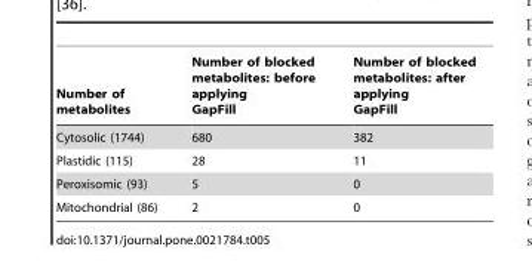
<table><thead><tr><td>Number of metabolites</td><td>Number of blocked metabolites: before applying GapFill</td><td>Number of blocked metabolites: after applying GapFill</td></tr></thead><tbody><tr><td>Cytosolic (1744)</td><td>680</td><td>382</td></tr><tr><td>Plastidic (115)</td><td>28</td><td>11</td></tr><tr><td>Peroxisomic (93)</td><td>5</td><td>0</td></tr><tr><td>Mitochondrial (86)</td><td>2</td><td>0</td></tr></tbody></table>